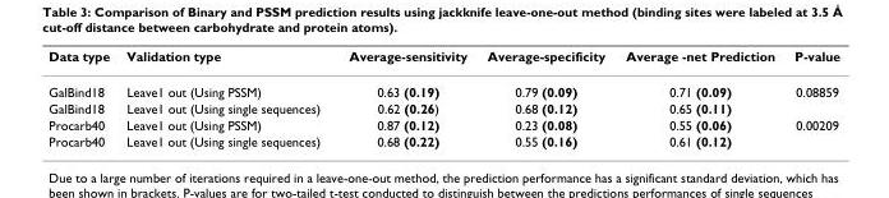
<table><thead><tr><td>Data type</td><td>Validation type</td><td>Average-sensitivity</td><td>Average-specificity</td><td>Average -net Prediction</td><td>P-value</td></tr></thead><tbody><tr><td>GalBind18</td><td>Leave1 out (Using PSSM)</td><td>0.63 (0.19)</td><td>0.79 (0.09)</td><td>0.71 (0.09)</td><td>0.08859</td></tr><tr><td>GalBind18</td><td>Leave1 out (Using single sequences)</td><td>0.62 (0.26)</td><td>0.68 (0.12)</td><td>0.65 (0.11)</td><td></td></tr><tr><td>Procarb40</td><td>Leave1 out (Using PSSM)</td><td>0.87 (0.12)</td><td>0.23 (0.08)</td><td>0.55 (0.06)</td><td>0.00209</td></tr><tr><td>Procarb40</td><td>Leave1 out (Using single sequences)</td><td>0.68 (0.22)</td><td>0.55 (0.16)</td><td>0.61 (0.12)</td><td></td></tr></tbody></table>